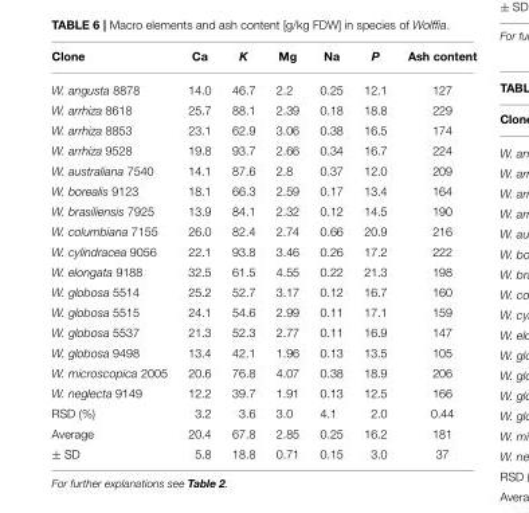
<table><thead><tr><td>Clone</td><td>Ca</td><td>K</td><td>Mg</td><td>Na</td><td>P</td><td>Ash content</td></tr></thead><tbody><tr><td>W. angusta 8878</td><td>14.0</td><td>46.7</td><td>2.2</td><td>0.25</td><td>12.1</td><td>127</td></tr><tr><td>W. arrhiza 8618</td><td>25.7</td><td>88.1</td><td>2.39</td><td>0.18</td><td>18.8</td><td>229</td></tr><tr><td>W. arrhiza 8853</td><td>23.1</td><td>62.9</td><td>3.06</td><td>0.38</td><td>16.5</td><td>174</td></tr><tr><td>W. arrhiza 9528</td><td>19.8</td><td>93.7</td><td>2.66</td><td>0.34</td><td>16.7</td><td>224</td></tr><tr><td>W. australiana 7540</td><td>14.1</td><td>87.6</td><td>2.8</td><td>0.37</td><td>12.0</td><td>209</td></tr><tr><td>W. borealis 9123</td><td>18.1</td><td>66.3</td><td>2.59</td><td>0.17</td><td>13.4</td><td>164</td></tr><tr><td>W. brasiliensis 7925</td><td>13.9</td><td>84.1</td><td>2.32</td><td>0.12</td><td>14.5</td><td>190</td></tr><tr><td>W. columbiana 7155</td><td>26.0</td><td>82.4</td><td>2.74</td><td>0.66</td><td>20.9</td><td>216</td></tr><tr><td>W. cylindracea 9056</td><td>22.1</td><td>93.8</td><td>3.46</td><td>0.26</td><td>17.2</td><td>222</td></tr><tr><td>W. elongata 9188</td><td>32.5</td><td>61.5</td><td>4.55</td><td>0.22</td><td>21.3</td><td>198</td></tr><tr><td>W. globosa 5514</td><td>25.2</td><td>52.7</td><td>3.17</td><td>0.12</td><td>16.7</td><td>160</td></tr><tr><td>W. globosa 5515</td><td>24.1</td><td>54.6</td><td>2.99</td><td>0.11</td><td>17.1</td><td>159</td></tr><tr><td>W. globosa 5537</td><td>21.3</td><td>52.3</td><td>2.77</td><td>0.11</td><td>16.9</td><td>147</td></tr><tr><td>W. globosa 9498</td><td>13.4</td><td>42.1</td><td>1.96</td><td>0.13</td><td>13.5</td><td>105</td></tr><tr><td>W. microscopica 2005</td><td>20.6</td><td>76.8</td><td>4.07</td><td>0.38</td><td>18.9</td><td>206</td></tr><tr><td>W. neglecta 9149</td><td>12.2</td><td>39.7</td><td>1.91</td><td>0.13</td><td>12.5</td><td>166</td></tr><tr><td>RSD (%)</td><td>3.2</td><td>3.6</td><td>3.0</td><td>4.1</td><td>2.0</td><td>0.44</td></tr><tr><td>Average</td><td>20.4</td><td>67.8</td><td>2.85</td><td>0.25</td><td>16.2</td><td>181</td></tr><tr><td>± SD</td><td>5.8</td><td>18.8</td><td>0.71</td><td>0.15</td><td>3.0</td><td>37</td></tr></tbody></table>